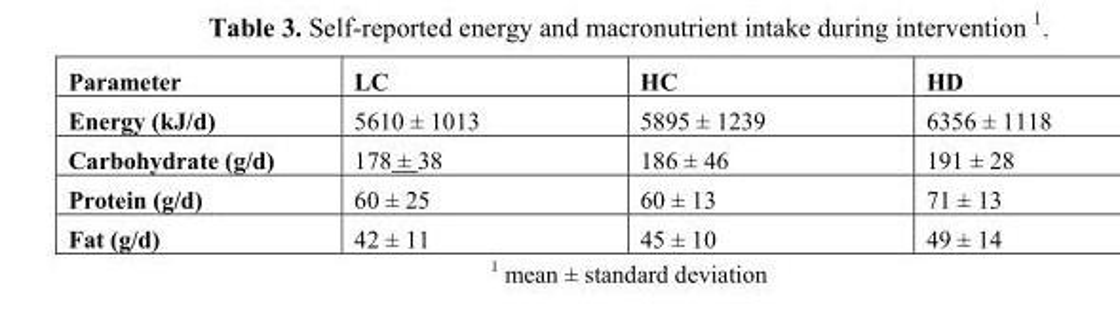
<table><thead><tr><td>Parameter</td><td>LC</td><td>HC</td><td>HD</td></tr></thead><tbody><tr><td>Energy (kJ/d)</td><td>5610 ± 1013</td><td>5895 ± 1239</td><td>6356 ± 1118</td></tr><tr><td>Carbohydrate (g/d)</td><td>178 ± 38</td><td>186 ± 46</td><td>191 ± 28</td></tr><tr><td>Protein (g/d)</td><td>60 ± 25</td><td>60 ± 13</td><td>71 ± 13</td></tr><tr><td>Fat (g/d)</td><td>42 ± 11</td><td>45 ± 10</td><td>49 ± 14</td></tr></tbody></table>